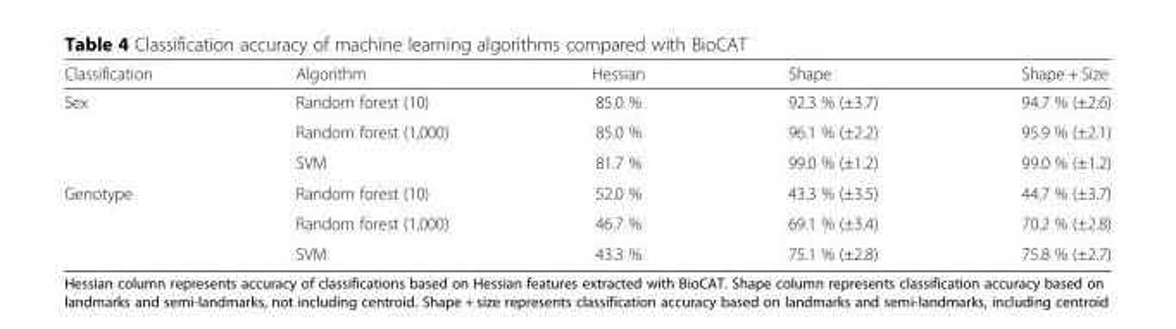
<table><thead><tr><td>Classification</td><td>Algorithm</td><td>Hessian</td><td>Shape</td><td>Shape + Size</td></tr></thead><tbody><tr><td rowspan="3">Sex</td><td>Random forest (10)</td><td>85.0 %</td><td>92.3 % (±3.7)</td><td>94.7 % (±2.6)</td></tr><tr><td>Random forest (1,000)</td><td>85.0 %</td><td>96.1 % (±2.2)</td><td>95.9 % (±2.1)</td></tr><tr><td>SVM</td><td>81.7 %</td><td>99.0 % (±1.2)</td><td>99.0 % (±1.2)</td></tr><tr><td rowspan="3">Genotype</td><td>Random forest (10)</td><td>52.0 %</td><td>43.3 % (±3.5)</td><td>44.7 % (±3.7)</td></tr><tr><td>Random forest (1,000)</td><td>46.7 %</td><td>69.1 % (±3.4)</td><td>70.2 % (±2.8)</td></tr><tr><td>SVM</td><td>43.3 %</td><td>75.1 % (±2.8)</td><td>75.8 % (±2.7)</td></tr></tbody></table>